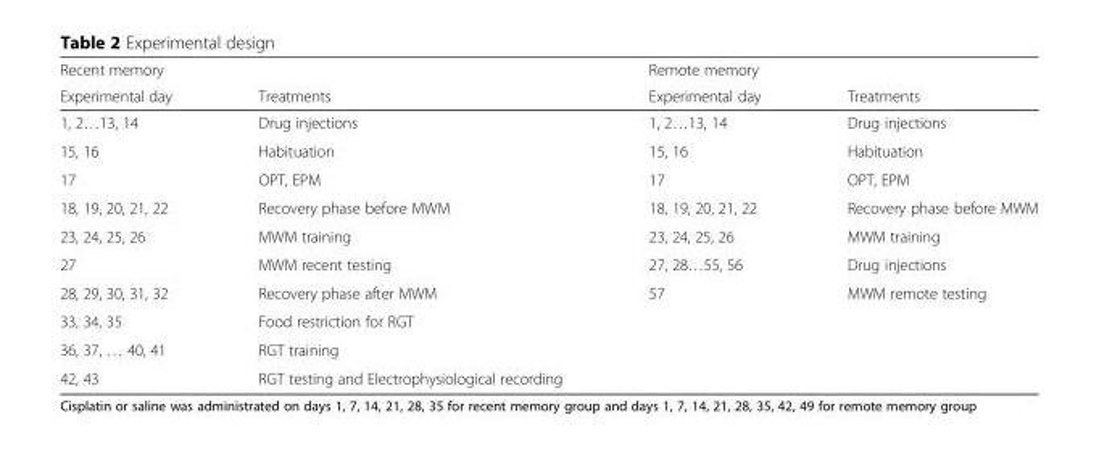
<table><thead><tr><td colspan="2">Recent memory</td><td colspan="2">Remote memory</td></tr><tr><td>Experimental day</td><td>Treatments</td><td>Experimental day</td><td>Treatments</td></tr></thead><tbody><tr><td>1, 2…13, 14</td><td>Drug injections</td><td>1, 2…13, 14</td><td>Drug injections</td></tr><tr><td>15, 16</td><td>Habituation</td><td>15, 16</td><td>Habituation</td></tr><tr><td>17</td><td>OPT, EPM</td><td>17</td><td>OPT, EPM</td></tr><tr><td>18, 19, 20, 21, 22</td><td>Recovery phase before MWM</td><td>18, 19, 20, 21, 22</td><td>Recovery phase before MWM</td></tr><tr><td>23, 24, 25, 26</td><td>MWM training</td><td>23, 24, 25, 26</td><td>MWM training</td></tr><tr><td>27</td><td>MWM recent testing</td><td>27, 28…55, 56</td><td>Drug injections</td></tr><tr><td>28, 29, 30, 31, 32</td><td>Recovery phase after MWM</td><td>57</td><td>MWM remote testing</td></tr><tr><td>33, 34, 35</td><td>Food restriction for RGT</td><td></td><td></td></tr><tr><td>36, 37, … 40, 41</td><td>RGT training</td><td></td><td></td></tr><tr><td>42, 43</td><td>RGT testing and Electrophysiological recording</td><td></td><td></td></tr></tbody></table>